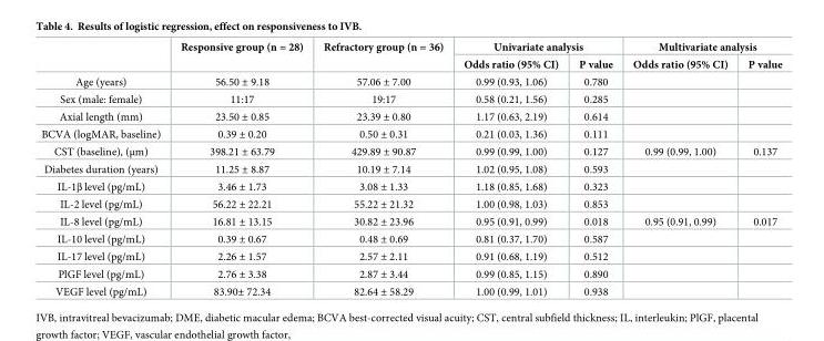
<table><thead><tr><td rowspan="2"></td><td rowspan="2">Responsive group (n = 28)</td><td rowspan="2">Refractory group (n = 36)</td><td colspan="2">Univariate analysis</td><td colspan="2">Multivariate analysis</td></tr><tr><td>Odds ratio (95% CI)</td><td>P value</td><td>Odds ratio (95% CI)</td><td>P value</td></tr></thead><tbody><tr><td>Age (years)</td><td>56.50 ± 9.18</td><td>57.06 ± 7.00</td><td>0.99 (0.93, 1.06)</td><td>0.780</td><td></td><td></td></tr><tr><td>Sex (male: female)</td><td>11:17</td><td>19:17</td><td>0.58 (0.21, 1.56)</td><td>0.285</td><td></td><td></td></tr><tr><td>Axial length (mm)</td><td>23.50 ± 0.85</td><td>23.39 ± 0.80</td><td>1.17 (0.63, 2.19)</td><td>0.614</td><td></td><td></td></tr><tr><td>BCVA (logMAR, baseline)</td><td>0.39 ± 0.20</td><td>0.50 ± 0.31</td><td>0.21 (0.03, 1.36)</td><td>0.111</td><td></td><td></td></tr><tr><td>CST (baseline), (μm)</td><td>398.21 ± 63.79</td><td>429.89 ± 90.87</td><td>0.99 (0.99, 1.00)</td><td>0.127</td><td>0.99 (0.99, 1.00)</td><td>0.137</td></tr><tr><td>Diabetes duration (years)</td><td>11.25 ± 8.87</td><td>10.19 ± 7.14</td><td>1.02 (0.95, 1.08)</td><td>0.593</td><td></td><td></td></tr><tr><td>IL-1β level (pg/mL)</td><td>3.46 ± 1.73</td><td>3.08 ± 1.33</td><td>1.18 (0.85, 1.68)</td><td>0.323</td><td></td><td></td></tr><tr><td>IL-2 level (pg/mL)</td><td>56.22 ± 22.21</td><td>55.22 ± 21.32</td><td>1.00 (0.98, 1.03)</td><td>0.853</td><td></td><td></td></tr><tr><td>IL-8 level (pg/mL)</td><td>16.81 ± 13.15</td><td>30.82 ± 23.96</td><td>0.95 (0.91, 0.99)</td><td>0.018</td><td>0.95 (0.91, 0.99)</td><td>0.017</td></tr><tr><td>IL-10 level (pg/mL)</td><td>0.39 ± 0.67</td><td>0.48 ± 0.69</td><td>0.81 (0.37, 1.70)</td><td>0.587</td><td></td><td></td></tr><tr><td>IL-17 level (pg/mL)</td><td>2.26 ± 1.57</td><td>2.57 ± 2.11</td><td>0.91 (0.68, 1.19)</td><td>0.512</td><td></td><td></td></tr><tr><td>PlGF level (pg/mL)</td><td>2.76 ± 3.38</td><td>2.87 ± 3.44</td><td>0.99 (0.85, 1.15)</td><td>0.890</td><td></td><td></td></tr><tr><td>VEGF level (pg/mL)</td><td>83.90± 72.34</td><td>82.64 ± 58.29</td><td>1.00 (0.99, 1.01)</td><td>0.938</td><td></td><td></td></tr></tbody></table>